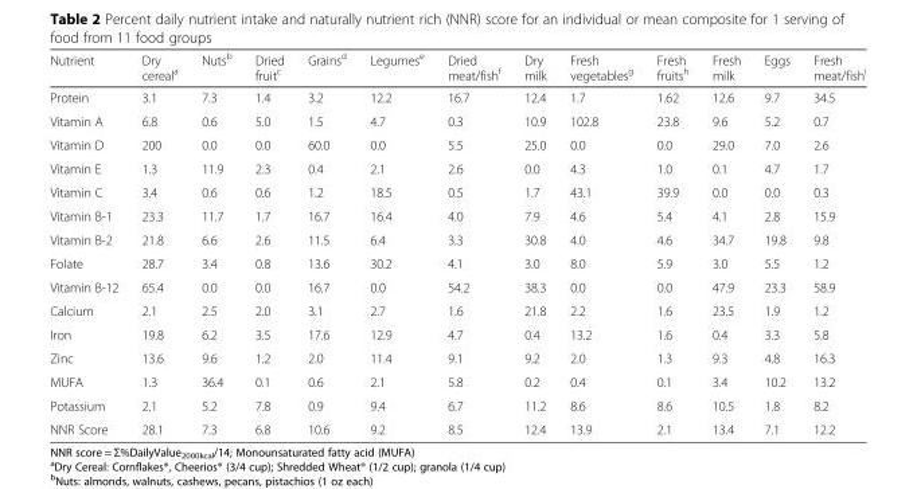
<table><thead><tr><td>Nutrient</td><td>Dry cereal<sup>a</sup></td><td>Nuts<sup>b</sup></td><td>Dried fruit<sup>c</sup></td><td>Grains<sup>d</sup></td><td>Legumes<sup>e</sup></td><td>Dried meat/fish<sup>f</sup></td><td>Dry milk</td><td>Fresh vegetables<sup>g</sup></td><td>Fresh fruits<sup>h</sup></td><td>Fresh milk</td><td>Eggs</td><td>Fresh meat/fish<sup>i</sup></td></tr></thead><tbody><tr><td>Protein</td><td>3.1</td><td>7.3</td><td>1.4</td><td>3.2</td><td>12.2</td><td>16.7</td><td>12.4</td><td>1.7</td><td>1.62</td><td>12.6</td><td>9.7</td><td>34.5</td></tr><tr><td>Vitamin A</td><td>6.8</td><td>0.6</td><td>5.0</td><td>1.5</td><td>4.7</td><td>0.3</td><td>10.9</td><td>102.8</td><td>23.8</td><td>9.6</td><td>5.2</td><td>0.7</td></tr><tr><td>Vitamin D</td><td>200</td><td>0.0</td><td>0.0</td><td>60.0</td><td>0.0</td><td>5.5</td><td>25.0</td><td>0.0</td><td>0.0</td><td>29.0</td><td>7.0</td><td>2.6</td></tr><tr><td>Vitamin E</td><td>1.3</td><td>11.9</td><td>2.3</td><td>0.4</td><td>2.1</td><td>2.6</td><td>0.0</td><td>4.3</td><td>1.0</td><td>0.1</td><td>4.7</td><td>1.7</td></tr><tr><td>Vitamin C</td><td>3.4</td><td>0.6</td><td>0.6</td><td>1.2</td><td>18.5</td><td>0.5</td><td>1.7</td><td>43.1</td><td>39.9</td><td>0.0</td><td>0.0</td><td>0.3</td></tr><tr><td>Vitamin B-1</td><td>23.3</td><td>11.7</td><td>1.7</td><td>16.7</td><td>16.4</td><td>4.0</td><td>7.9</td><td>4.6</td><td>5.4</td><td>4.1</td><td>2.8</td><td>15.9</td></tr><tr><td>Vitamin B-2</td><td>21.8</td><td>6.6</td><td>2.6</td><td>11.5</td><td>6.4</td><td>3.3</td><td>30.8</td><td>4.0</td><td>4.6</td><td>34.7</td><td>19.8</td><td>9.8</td></tr><tr><td>Folate</td><td>28.7</td><td>3.4</td><td>0.8</td><td>13.6</td><td>30.2</td><td>4.1</td><td>3.0</td><td>8.0</td><td>5.9</td><td>3.0</td><td>5.5</td><td>1.2</td></tr><tr><td>Vitamin B-12</td><td>65.4</td><td>0.0</td><td>0.0</td><td>16.7</td><td>0.0</td><td>54.2</td><td>38.3</td><td>0.0</td><td>0.0</td><td>47.9</td><td>23.3</td><td>58.9</td></tr><tr><td>Calcium</td><td>2.1</td><td>2.5</td><td>2.0</td><td>3.1</td><td>2.7</td><td>1.6</td><td>21.8</td><td>2.2</td><td>1.6</td><td>23.5</td><td>1.9</td><td>1.2</td></tr><tr><td>Iron</td><td>19.8</td><td>6.2</td><td>3.5</td><td>17.6</td><td>12.9</td><td>4.7</td><td>0.4</td><td>13.2</td><td>1.6</td><td>0.4</td><td>3.3</td><td>5.8</td></tr><tr><td>Zinc</td><td>13.6</td><td>9.6</td><td>1.2</td><td>2.0</td><td>11.4</td><td>9.1</td><td>9.2</td><td>2.0</td><td>1.3</td><td>9.3</td><td>4.8</td><td>16.3</td></tr><tr><td>MUFA</td><td>1.3</td><td>36.4</td><td>0.1</td><td>0.6</td><td>2.1</td><td>5.8</td><td>0.2</td><td>0.4</td><td>0.1</td><td>3.4</td><td>10.2</td><td>13.2</td></tr><tr><td>Potassium</td><td>2.1</td><td>5.2</td><td>7.8</td><td>0.9</td><td>9.4</td><td>6.7</td><td>11.2</td><td>8.6</td><td>8.6</td><td>10.5</td><td>1.8</td><td>8.2</td></tr><tr><td>NNR Score</td><td>28.1</td><td>7.3</td><td>6.8</td><td>10.6</td><td>9.2</td><td>8.5</td><td>12.4</td><td>13.9</td><td>2.1</td><td>13.4</td><td>7.1</td><td>12.2</td></tr></tbody></table>